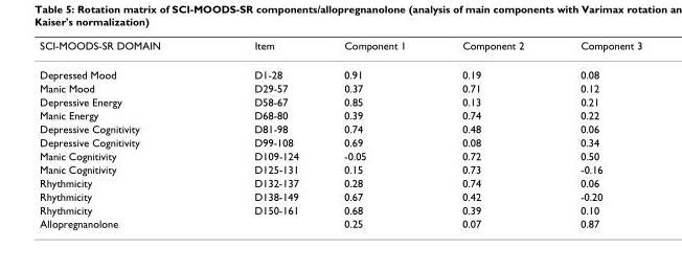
<table><thead><tr><td>SCI-MOODS-SR DOMAIN</td><td>Item</td><td>Component 1</td><td>Component 2</td><td>Component 3</td></tr></thead><tbody><tr><td>Depressed Mood</td><td>D1-28</td><td>0.91</td><td>0.19</td><td>0.08</td></tr><tr><td>Manic Mood</td><td>D29-57</td><td>0.37</td><td>0.71</td><td>0.12</td></tr><tr><td>Depressive Energy</td><td>D58-67</td><td>0.85</td><td>0.13</td><td>0.21</td></tr><tr><td>Manic Energy</td><td>D68-80</td><td>0.39</td><td>0.74</td><td>0.22</td></tr><tr><td>Depressive Cognitivity</td><td>D81-98</td><td>0.74</td><td>0.48</td><td>0.06</td></tr><tr><td>Depressive Cognitivity</td><td>D99-108</td><td>0.69</td><td>0.08</td><td>0.34</td></tr><tr><td>Manic Cognitivity</td><td>D109-124</td><td>-0.05</td><td>0.72</td><td>0.50</td></tr><tr><td>Manic Cognitivity</td><td>D125-131</td><td>0.15</td><td>0.73</td><td>-0.16</td></tr><tr><td>Rhythmicity</td><td>D132-137</td><td>0.28</td><td>0.74</td><td>0.06</td></tr><tr><td>Rhythmicity</td><td>D138-149</td><td>0.67</td><td>0.42</td><td>-0.20</td></tr><tr><td>Rhythmicity</td><td>D150-161</td><td>0.68</td><td>0.39</td><td>0.10</td></tr><tr><td>Allopregnanolone</td><td></td><td>0.25</td><td>0.07</td><td>0.87</td></tr></tbody></table>